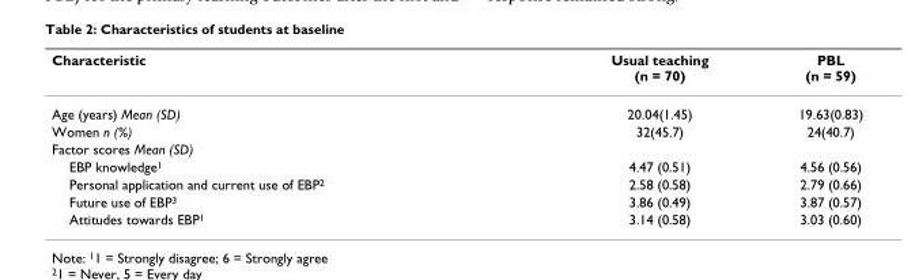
<table><thead><tr><td>Characteristic</td><td>Usual teaching (n = 70)</td><td>PBL (n = 59)</td></tr></thead><tbody><tr><td>Age (years) Mean (SD)</td><td>20.04(1.45)</td><td>19.63(0.83)</td></tr><tr><td>Women n (%)</td><td>32(45.7)</td><td>24(40.7)</td></tr><tr><td colspan="3">Factor scores Mean (SD)</td></tr><tr><td>EBP knowledge<sup>1</sup></td><td>4.47 (0.51)</td><td>4.56 (0.56)</td></tr><tr><td>Personal application and current use of EBP<sup>2</sup></td><td>2.58 (0.58)</td><td>2.79 (0.66)</td></tr><tr><td>Future use of EBP<sup>3</sup></td><td>3.86 (0.49)</td><td>3.87 (0.57)</td></tr><tr><td>Attitudes towards EBP<sup>1</sup></td><td>3.14 (0.58)</td><td>3.03 (0.60)</td></tr></tbody></table>